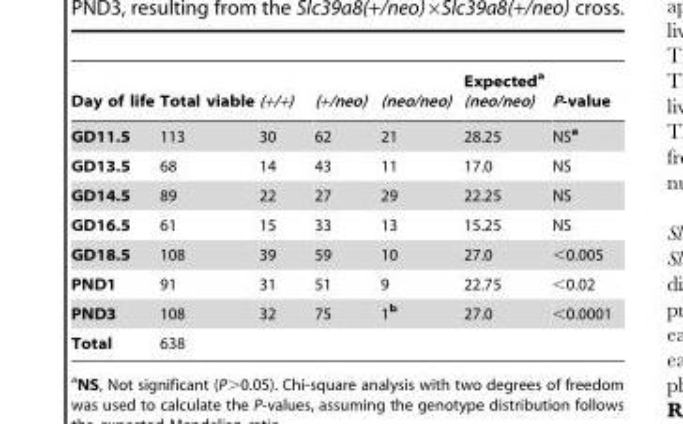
<table><thead><tr><td>Day of life</td><td>Total viable</td><td>(+/+)</td><td>(+/neo)</td><td>(neo/neo)</td><td>Expected<sup>a</sup> (neo/neo)</td><td>P-value</td></tr></thead><tbody><tr><td>GD11.5</td><td>113</td><td>30</td><td>62</td><td>21</td><td>28.25</td><td>NS<sup>a</sup></td></tr><tr><td>GD13.5</td><td>68</td><td>14</td><td>43</td><td>11</td><td>17.0</td><td>NS</td></tr><tr><td>GD14.5</td><td>89</td><td>22</td><td>27</td><td>29</td><td>22.25</td><td>NS</td></tr><tr><td>GD16.5</td><td>61</td><td>15</td><td>33</td><td>13</td><td>15.25</td><td>NS</td></tr><tr><td>GD18.5</td><td>108</td><td>39</td><td>59</td><td>10</td><td>27.0</td><td>&lt;0.005</td></tr><tr><td>PND1</td><td>91</td><td>31</td><td>51</td><td>9</td><td>22.75</td><td>&lt;0.02</td></tr><tr><td>PND3</td><td>108</td><td>32</td><td>75</td><td>1<sup>b</sup></td><td>27.0</td><td>&lt;0.0001</td></tr><tr><td>Total</td><td>638</td><td></td><td></td><td></td><td></td><td></td></tr></tbody></table>